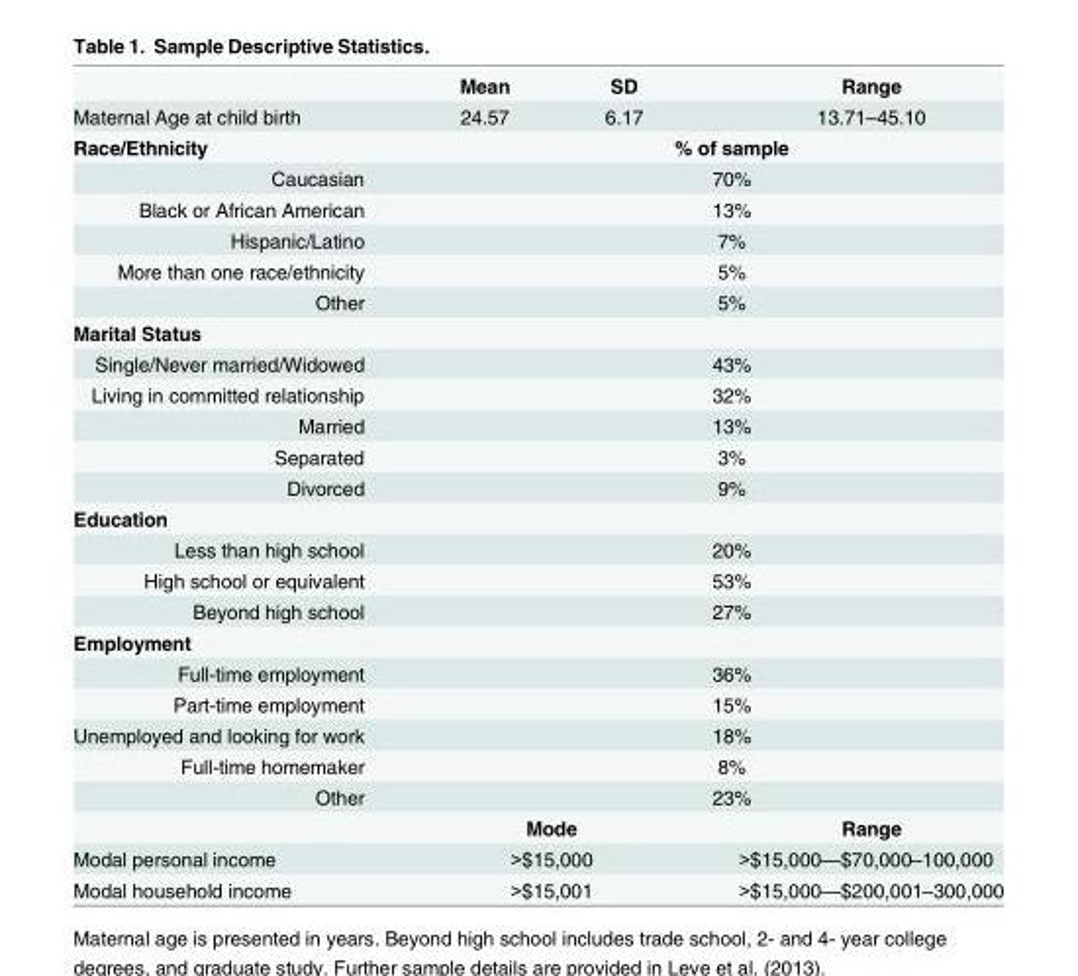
<table><thead><tr><td></td><td>Mean</td><td>SD</td><td>Range</td></tr></thead><tbody><tr><td>Maternal Age at child birth</td><td>24.57</td><td>6.17</td><td>13.71–45.10</td></tr><tr><td>Race/Ethnicity</td><td colspan="3">% of sample</td></tr><tr><td>Caucasian</td><td colspan="3">70%</td></tr><tr><td>Black or African American</td><td colspan="3">13%</td></tr><tr><td>Hispanic/Latino</td><td colspan="3">7%</td></tr><tr><td>More than one race/ethnicity</td><td colspan="3">5%</td></tr><tr><td>Other</td><td colspan="3">5%</td></tr><tr><td colspan="4">Marital Status</td></tr><tr><td>Single/Never married/Widowed</td><td colspan="3">43%</td></tr><tr><td>Living in committed relationship</td><td colspan="3">32%</td></tr><tr><td>Married</td><td colspan="3">13%</td></tr><tr><td>Separated</td><td colspan="3">3%</td></tr><tr><td>Divorced</td><td colspan="3">9%</td></tr><tr><td colspan="4">Education</td></tr><tr><td>Less than high school</td><td colspan="3">20%</td></tr><tr><td>High school or equivalent</td><td colspan="3">53%</td></tr><tr><td>Beyond high school</td><td colspan="3">27%</td></tr><tr><td colspan="4">Employment</td></tr><tr><td>Full-time employment</td><td colspan="3">36%</td></tr><tr><td>Part-time employment</td><td colspan="3">15%</td></tr><tr><td>Unemployed and looking for work</td><td colspan="3">18%</td></tr><tr><td>Full-time homemaker</td><td colspan="3">8%</td></tr><tr><td rowspan="2">Other</td><td colspan="3">23%</td></tr><tr><td colspan="2">Mode</td><td>Range</td></tr><tr><td>Modal personal income</td><td colspan="2">&gt;$15,000</td><td>&gt;$15,000—$70,000–100,000</td></tr><tr><td>Modal household income</td><td colspan="2">&gt;$15,001</td><td>&gt;$15,000—$200,001–300,000</td></tr></tbody></table>